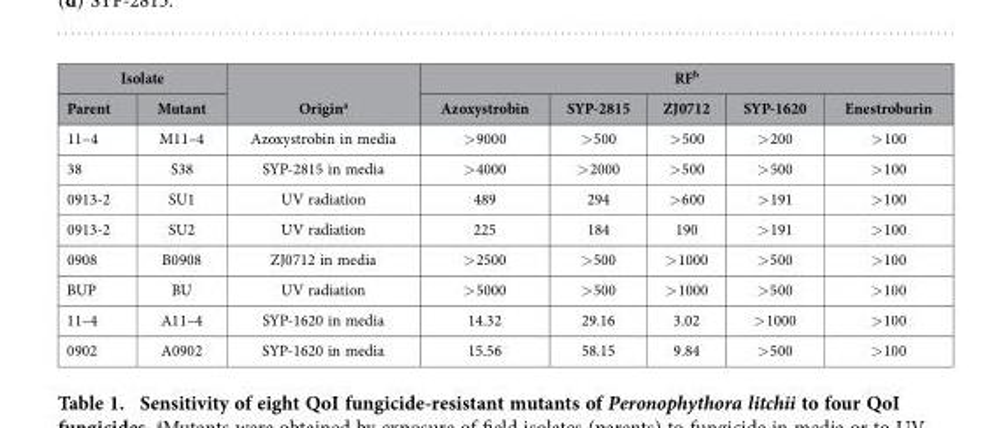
<table><thead><tr><td colspan="2">Isolate</td><td rowspan="2">Origin<sup>a</sup></td><td colspan="5">RF<sup>b</sup></td></tr><tr><td>Parent</td><td>Mutant</td><td>Azoxystrobin</td><td>SYP-2815</td><td>ZJ0712</td><td>SYP-1620</td><td>Enestroburin</td></tr></thead><tbody><tr><td>11–4</td><td>M11–4</td><td>Azoxystrobin in media</td><td>&gt; 9000</td><td>&gt; 500</td><td>&gt; 500</td><td>&gt; 200</td><td>&gt; 100</td></tr><tr><td>38</td><td>S38</td><td>SYP-2815 in media</td><td>&gt; 4000</td><td>&gt; 2000</td><td>&gt; 500</td><td>&gt; 500</td><td>&gt; 100</td></tr><tr><td>0913-2</td><td>SU1</td><td>UV radiation</td><td>489</td><td>294</td><td>&gt; 600</td><td>&gt; 191</td><td>&gt; 100</td></tr><tr><td>0913-2</td><td>SU2</td><td>UV radiation</td><td>225</td><td>184</td><td>190</td><td>&gt; 191</td><td>&gt; 100</td></tr><tr><td>0908</td><td>B0908</td><td>ZJ0712 in media</td><td>&gt; 2500</td><td>&gt; 500</td><td>&gt; 1000</td><td>&gt; 500</td><td>&gt; 100</td></tr><tr><td>BUP</td><td>BU</td><td>UV radiation</td><td>&gt; 5000</td><td>&gt; 500</td><td>&gt; 1000</td><td>&gt; 500</td><td>&gt; 100</td></tr><tr><td>11–4</td><td>A11–4</td><td>SYP-1620 in media</td><td>14.32</td><td>29.16</td><td>3.02</td><td>&gt; 1000</td><td>&gt; 100</td></tr><tr><td>0902</td><td>A0902</td><td>SYP-1620 in media</td><td>15.56</td><td>58.15</td><td>9.84</td><td>&gt; 500</td><td>&gt; 100</td></tr></tbody></table>